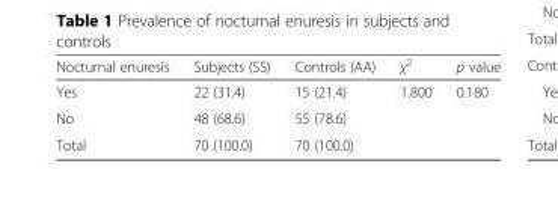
<table><thead><tr><td>Nocturnal enuresis</td><td>Subjects (SS)</td><td>Controls (AA)</td><td>χ<sup>2</sup></td><td>p value</td></tr></thead><tbody><tr><td>Yes</td><td>22 (31.4)</td><td>15 (21.4)</td><td>1.800</td><td>0.180</td></tr><tr><td>No</td><td>48 (68.6)</td><td>55 (78.6)</td><td></td><td></td></tr><tr><td>Total</td><td>70 (100.0)</td><td>70 (100.0)</td><td></td><td></td></tr></tbody></table>